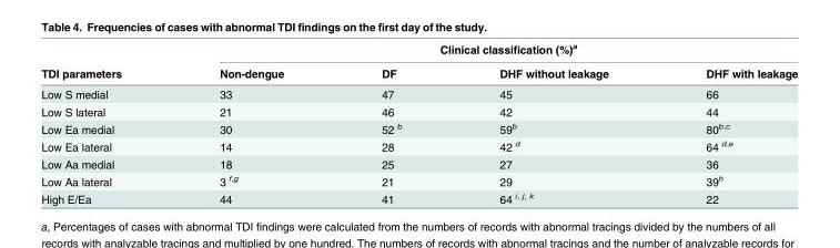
<table><thead><tr><td rowspan="2">TDI parameters</td><td colspan="4">Clinical classification (%)<sup>a</sup></td></tr><tr><td>Non-dengue</td><td>DF</td><td>DHF without leakage</td><td>DHF with leakage</td></tr></thead><tbody><tr><td>Low S medial</td><td>33</td><td>47</td><td>45</td><td>66</td></tr><tr><td>Low S lateral</td><td>21</td><td>46</td><td>42</td><td>44</td></tr><tr><td>Low Ea medial</td><td>30</td><td>52 <sup>b</sup></td><td>59<sup>b</sup></td><td>80<sup>b,c</sup></td></tr><tr><td>Low Ea lateral</td><td>14</td><td>28</td><td>42 <sup>d</sup></td><td>64 <sup>d,e</sup></td></tr><tr><td>Low Aa medial</td><td>18</td><td>25</td><td>27</td><td>36</td></tr><tr><td>Low Aa lateral</td><td>3 <sup>f,g</sup></td><td>21</td><td>29</td><td>39<sup>h</sup></td></tr><tr><td>High E/Ea</td><td>44</td><td>41</td><td>64 <sup>i, j, k</sup></td><td>22</td></tr></tbody></table>